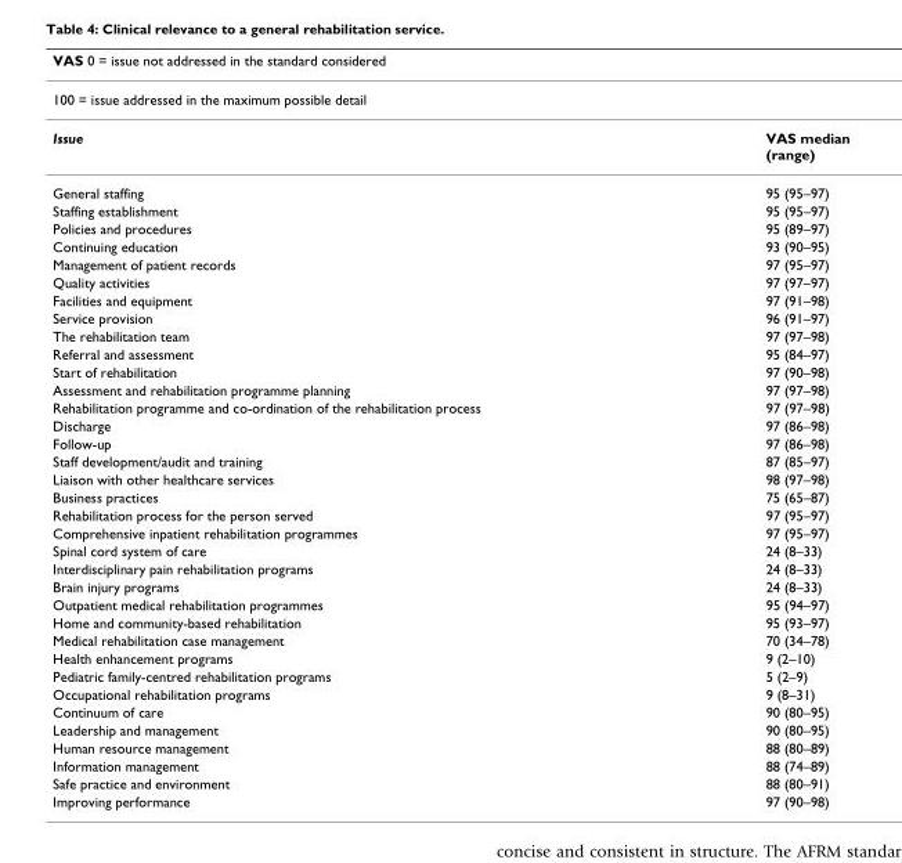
<table><thead><tr><td rowspan="2" colspan="2">VAS 0 = issue not addressed in the standard considered 100 = issue addressed in the maximum possible detail</td></tr><tr></tr><tr><td>Issue</td><td>VAS median (range)</td></tr></thead><tbody><tr><td>General staffing</td><td>95 (95–97)</td></tr><tr><td>Staffing establishment</td><td>95 (95–97)</td></tr><tr><td>Policies and procedures</td><td>95 (89–97)</td></tr><tr><td>Continuing education</td><td>93 (90–95)</td></tr><tr><td>Management of patient records</td><td>97 (95–97)</td></tr><tr><td>Quality activities</td><td>97 (97–97)</td></tr><tr><td>Facilities and equipment</td><td>97 (91–98)</td></tr><tr><td>Service provision</td><td>96 (91–97)</td></tr><tr><td>The rehabilitation team</td><td>97 (97–98)</td></tr><tr><td>Referral and assessment</td><td>95 (84–97)</td></tr><tr><td>Start of rehabilitation</td><td>97 (90–98)</td></tr><tr><td>Assessment and rehabilitation programme planning</td><td>97 (97–98)</td></tr><tr><td>Rehabilitation programme and co-ordination of the rehabilitation process</td><td>97 (97–98)</td></tr><tr><td>Discharge</td><td>97 (86–98)</td></tr><tr><td>Follow-up</td><td>97 (86–98)</td></tr><tr><td>Staff development/audit and training</td><td>87 (85–97)</td></tr><tr><td>Liaison with other healthcare services</td><td>98 (97–98)</td></tr><tr><td>Business practices</td><td>75 (65–87)</td></tr><tr><td>Rehabilitation process for the person served</td><td>97 (95–97)</td></tr><tr><td>Comprehensive inpatient rehabilitation programmes</td><td>97 (95–97)</td></tr><tr><td>Spinal cord system of care</td><td>24 (8–33)</td></tr><tr><td>Interdisciplinary pain rehabilitation programs</td><td>24 (8–33)</td></tr><tr><td>Brain injury programs</td><td>24 (8–33)</td></tr><tr><td>Outpatient medical rehabilitation programmes</td><td>95 (94–97)</td></tr><tr><td>Home and community-based rehabilitation</td><td>95 (93–97)</td></tr><tr><td>Medical rehabilitation case management</td><td>70 (34–78)</td></tr><tr><td>Health enhancement programs</td><td>9 (2–10)</td></tr><tr><td>Pediatric family-centred rehabilitation programs</td><td>5 (2–9)</td></tr><tr><td>Occupational rehabilitation programs</td><td>9 (8–31)</td></tr><tr><td>Continuum of care</td><td>90 (80–95)</td></tr><tr><td>Leadership and management</td><td>90 (80–95)</td></tr><tr><td>Human resource management</td><td>88 (80–89)</td></tr><tr><td>Information management</td><td>88 (74–89)</td></tr><tr><td>Safe practice and environment</td><td>88 (80–91)</td></tr><tr><td>Improving performance</td><td>97 (90–98)</td></tr></tbody></table>